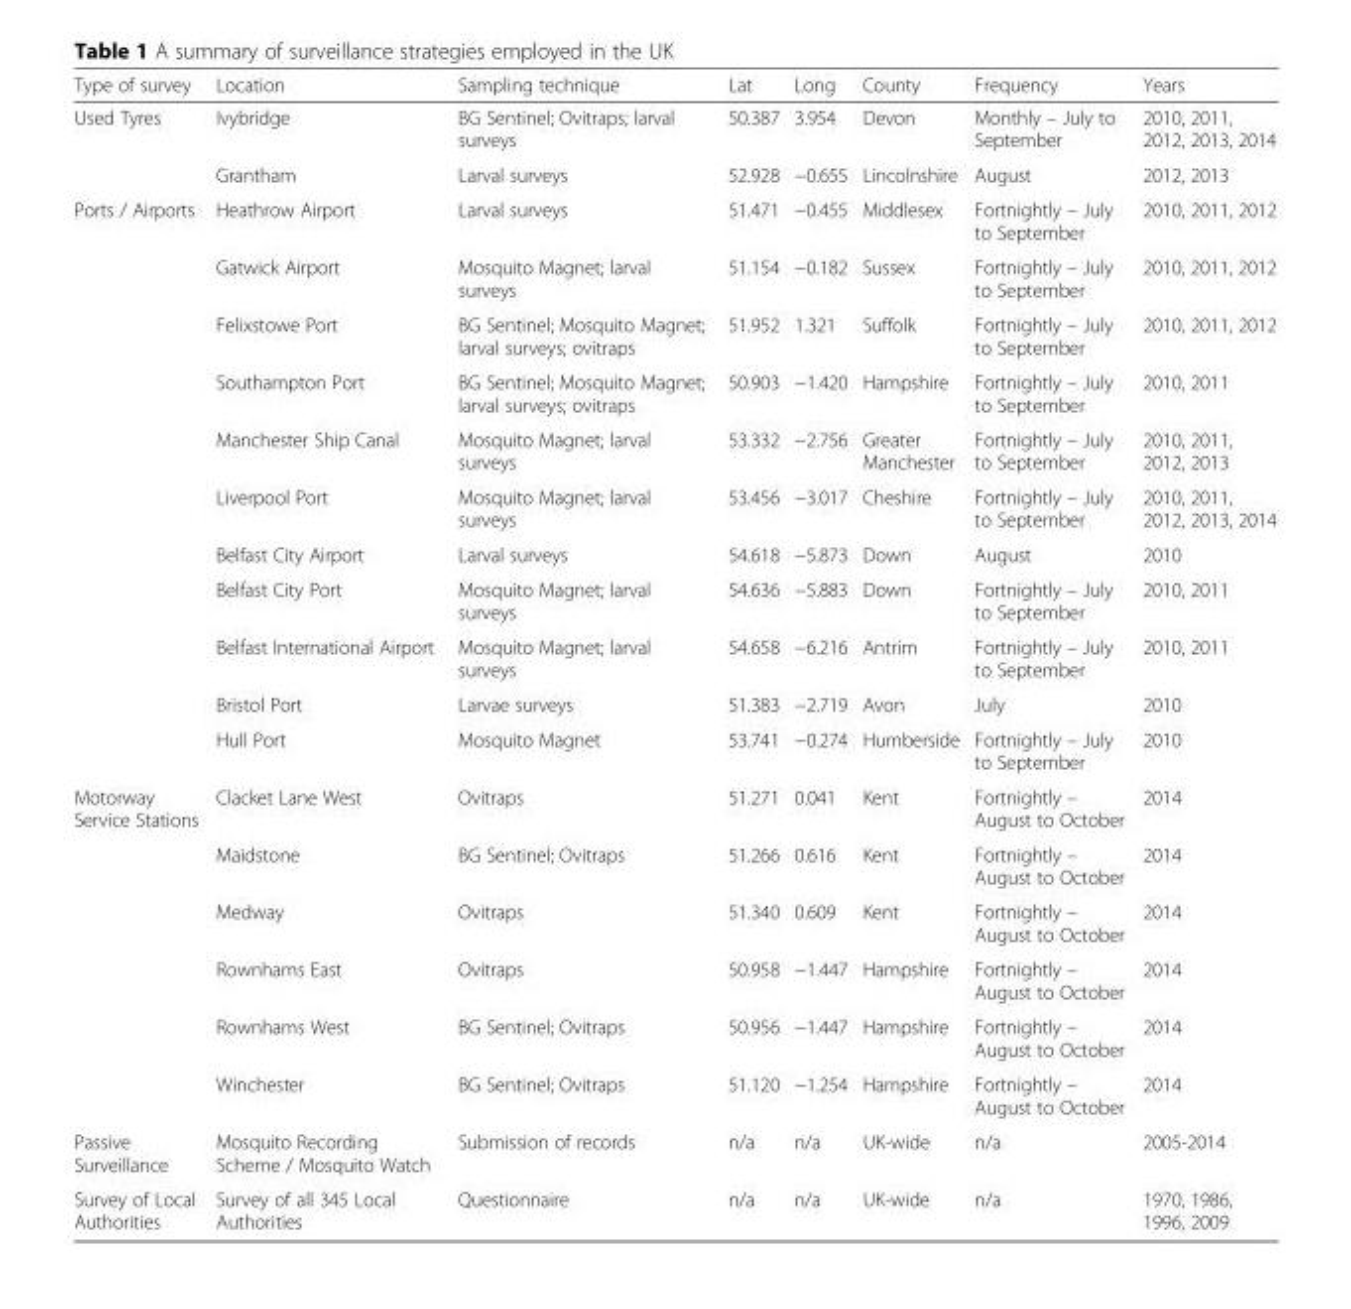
<table><thead><tr><td>Type of survey</td><td>Location</td><td>Sampling technique</td><td>Lat</td><td>Long</td><td>County</td><td>Frequency</td><td>Years</td></tr></thead><tbody><tr><td rowspan="2">Used Tyres</td><td>Ivybridge</td><td>BG Sentinel; Ovitraps; larval surveys</td><td>50.387</td><td>3.954</td><td>Devon</td><td>Monthly – July to September</td><td>2010, 2011, 2012, 2013, 2014</td></tr><tr><td>Grantham</td><td>Larval surveys</td><td>52.928</td><td>−0.655</td><td>Lincolnshire</td><td>August</td><td>2012, 2013</td></tr><tr><td rowspan="11">Ports / Airports</td><td>Heathrow Airport</td><td>Larval surveys</td><td>51.471</td><td>−0.455</td><td>Middlesex</td><td>Fortnightly – July to September</td><td>2010, 2011, 2012</td></tr><tr><td>Gatwick Airport</td><td>Mosquito Magnet; larval surveys</td><td>51.154</td><td>−0.182</td><td>Sussex</td><td>Fortnightly – July to September</td><td>2010, 2011, 2012</td></tr><tr><td>Felixstowe Port</td><td>BG Sentinel; Mosquito Magnet; larval surveys; ovitraps</td><td>51.952</td><td>1.321</td><td>Suffolk</td><td>Fortnightly – July to September</td><td>2010, 2011, 2012</td></tr><tr><td>Southampton Port</td><td>BG Sentinel; Mosquito Magnet; larval surveys; ovitraps</td><td>50.903</td><td>−1.420</td><td>Hampshire</td><td>Fortnightly – July to September</td><td>2010, 2011</td></tr><tr><td>Manchester Ship Canal</td><td>Mosquito Magnet; larval surveys</td><td>53.332</td><td>−2.756</td><td>Greater Manchester</td><td>Fortnightly – July to September</td><td>2010, 2011, 2012, 2013</td></tr><tr><td>Liverpool Port</td><td>Mosquito Magnet; larval surveys</td><td>53.456</td><td>−3.017</td><td>Cheshire</td><td>Fortnightly – July to September</td><td>2010, 2011, 2012, 2013, 2014</td></tr><tr><td>Belfast City Airport</td><td>Larval surveys</td><td>54.618</td><td>−5.873</td><td>Down</td><td>August</td><td>2010</td></tr><tr><td>Belfast City Port</td><td>Mosquito Magnet; larval surveys</td><td>54.636</td><td>−5.883</td><td>Down</td><td>Fortnightly – July to September</td><td>2010, 2011</td></tr><tr><td>Belfast International Airport</td><td>Mosquito Magnet; larval surveys</td><td>54.658</td><td>−6.216</td><td>Antrim</td><td>Fortnightly – July to September</td><td>2010, 2011</td></tr><tr><td>Bristol Port</td><td>Larvae surveys</td><td>51.383</td><td>−2.719</td><td>Avon</td><td>July</td><td>2010</td></tr><tr><td>Hull Port</td><td>Mosquito Magnet</td><td>53.741</td><td>−0.274</td><td>Humberside</td><td>Fortnightly – July to September</td><td>2010</td></tr><tr><td rowspan="6">Motorway Service Stations</td><td>Clacket Lane West</td><td>Ovitraps</td><td>51.271</td><td>0.041</td><td>Kent</td><td>Fortnightly – August to October</td><td>2014</td></tr><tr><td>Maidstone</td><td>BG Sentinel; Ovitraps</td><td>51.266</td><td>0.616</td><td>Kent</td><td>Fortnightly – August to October</td><td>2014</td></tr><tr><td>Medway</td><td>Ovitraps</td><td>51.340</td><td>0.609</td><td>Kent</td><td>Fortnightly – August to October</td><td>2014</td></tr><tr><td>Rownhams East</td><td>Ovitraps</td><td>50.958</td><td>−1.447</td><td>Hampshire</td><td>Fortnightly – August to October</td><td>2014</td></tr><tr><td>Rownhams West</td><td>BG Sentinel; Ovitraps</td><td>50.956</td><td>−1.447</td><td>Hampshire</td><td>Fortnightly – August to October</td><td>2014</td></tr><tr><td>Winchester</td><td>BG Sentinel; Ovitraps</td><td>51.120</td><td>−1.254</td><td>Hampshire</td><td>Fortnightly – August to October</td><td>2014</td></tr><tr><td>Passive Surveillance</td><td>Mosquito Recording Scheme / Mosquito Watch</td><td>Submission of records</td><td>n/a</td><td>n/a</td><td>UK-wide</td><td>n/a</td><td>2005-2014</td></tr><tr><td>Survey of Local Authorities</td><td>Survey of all 345 Local Authorities</td><td>Questionnaire</td><td>n/a</td><td>n/a</td><td>UK-wide</td><td>n/a</td><td>1970, 1986, 1996, 2009</td></tr></tbody></table>